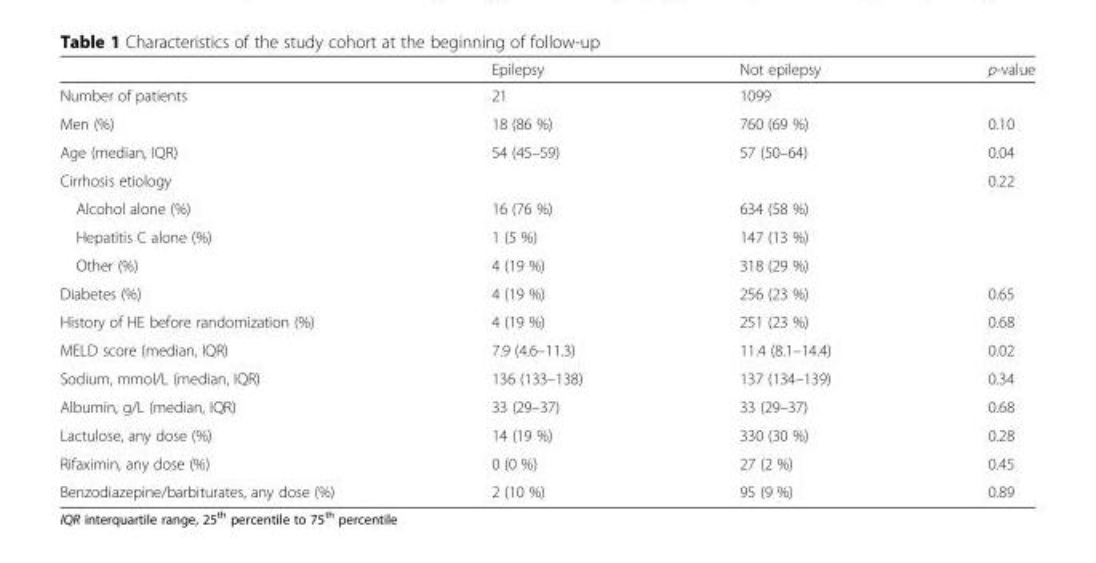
<table><thead><tr><td></td><td>Epilepsy</td><td>Not epilepsy</td><td>p-value</td></tr></thead><tbody><tr><td>Number of patients</td><td>21</td><td>1099</td><td></td></tr><tr><td>Men (%)</td><td>18 (86 %)</td><td>760 (69 %)</td><td>0.10</td></tr><tr><td>Age (median, IQR)</td><td>54 (45–59)</td><td>57 (50–64)</td><td>0.04</td></tr><tr><td>Cirrhosis etiology</td><td></td><td></td><td>0.22</td></tr><tr><td>Alcohol alone (%)</td><td>16 (76 %)</td><td>634 (58 %)</td><td></td></tr><tr><td>Hepatitis C alone (%)</td><td>1 (5 %)</td><td>147 (13 %)</td><td></td></tr><tr><td>Other (%)</td><td>4 (19 %)</td><td>318 (29 %)</td><td></td></tr><tr><td>Diabetes (%)</td><td>4 (19 %)</td><td>256 (23 %)</td><td>0.65</td></tr><tr><td>History of HE before randomization (%)</td><td>4 (19 %)</td><td>251 (23 %)</td><td>0.68</td></tr><tr><td>MELD score (median, IQR)</td><td>7.9 (4.6–11.3)</td><td>11.4 (8.1–14.4)</td><td>0.02</td></tr><tr><td>Sodium, mmol/L (median, IQR)</td><td>136 (133–138)</td><td>137 (134–139)</td><td>0.34</td></tr><tr><td>Albumin, g/L (median, IQR)</td><td>33 (29–37)</td><td>33 (29–37)</td><td>0.68</td></tr><tr><td>Lactulose, any dose (%)</td><td>14 (19 %)</td><td>330 (30 %)</td><td>0.28</td></tr><tr><td>Rifaximin, any dose (%)</td><td>0 (0 %)</td><td>27 (2 %)</td><td>0.45</td></tr><tr><td>Benzodiazepine/barbiturates, any dose (%)</td><td>2 (10 %)</td><td>95 (9 %)</td><td>0.89</td></tr></tbody></table>